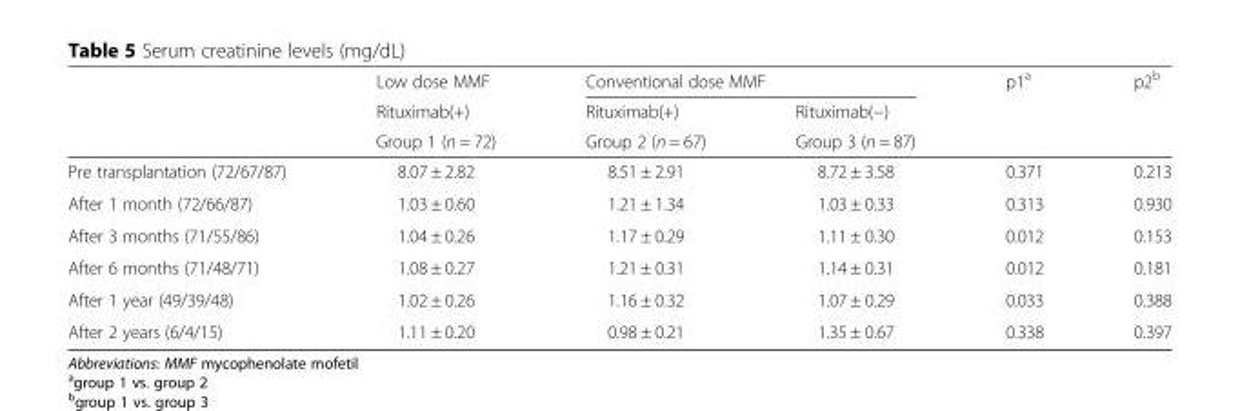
<table><thead><tr><td rowspan="3"></td><td rowspan="3">Low dose MMF Rituximab(+) Group 1 (n = 72)</td><td colspan="2">Conventional dose MMF</td><td rowspan="3">p1<sup>a</sup></td><td rowspan="3">p2<sup>b</sup></td></tr><tr><td rowspan="2">Rituximab(+) Group 2 (n = 67)</td><td rowspan="2">Rituximab(−) Group 3 (n = 87)</td></tr><tr></tr></thead><tbody><tr><td>Pre transplantation (72/67/87)</td><td>8.07 ± 2.82</td><td>8.51 ± 2.91</td><td>8.72 ± 3.58</td><td>0.371</td><td>0.213</td></tr><tr><td>After 1 month (72/66/87)</td><td>1.03 ± 0.60</td><td>1.21 ± 1.34</td><td>1.03 ± 0.33</td><td>0.313</td><td>0.930</td></tr><tr><td>After 3 months (71/55/86)</td><td>1.04 ± 0.26</td><td>1.17 ± 0.29</td><td>1.11 ± 0.30</td><td>0.012</td><td>0.153</td></tr><tr><td>After 6 months (71/48/71)</td><td>1.08 ± 0.27</td><td>1.21 ± 0.31</td><td>1.14 ± 0.31</td><td>0.012</td><td>0.181</td></tr><tr><td>After 1 year (49/39/48)</td><td>1.02 ± 0.26</td><td>1.16 ± 0.32</td><td>1.07 ± 0.29</td><td>0.033</td><td>0.388</td></tr><tr><td>After 2 years (6/4/15)</td><td>1.11 ± 0.20</td><td>0.98 ± 0.21</td><td>1.35 ± 0.67</td><td>0.338</td><td>0.397</td></tr></tbody></table>